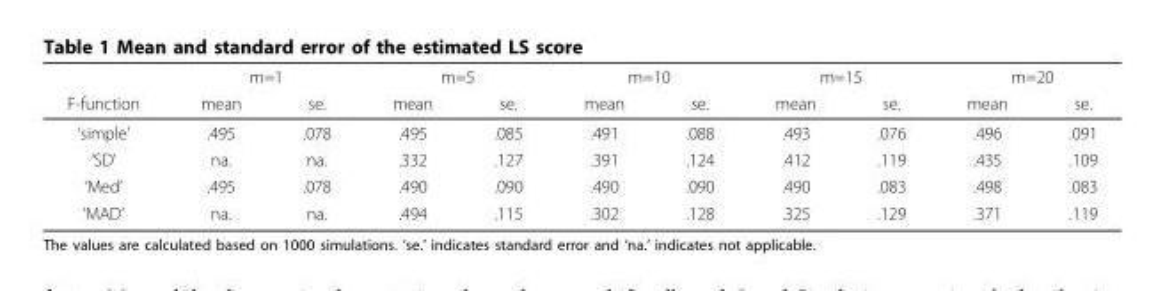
<table><thead><tr><td rowspan="2">F-function</td><td colspan="2">m=1</td><td colspan="2">m=5</td><td colspan="2">m=10</td><td colspan="2">m=15</td><td colspan="2">m=20</td></tr><tr><td>mean</td><td>se.</td><td>mean</td><td>se.</td><td>mean</td><td>se.</td><td>mean</td><td>se.</td><td>mean</td><td>se.</td></tr></thead><tbody><tr><td>‘simple’</td><td>.495</td><td>.078</td><td>.495</td><td>.085</td><td>.491</td><td>.088</td><td>.493</td><td>.076</td><td>.496</td><td>.091</td></tr><tr><td>‘SD’</td><td>na.</td><td>na.</td><td>.332</td><td>.127</td><td>.391</td><td>.124</td><td>.412</td><td>.119</td><td>.435</td><td>.109</td></tr><tr><td>‘Med’</td><td>.495</td><td>.078</td><td>.490</td><td>.090</td><td>.490</td><td>.090</td><td>.490</td><td>.083</td><td>.498</td><td>.083</td></tr><tr><td>‘MAD’</td><td>na.</td><td>na.</td><td>.494</td><td>.115</td><td>.302</td><td>.128</td><td>.325</td><td>.129</td><td>.371</td><td>.119</td></tr></tbody></table>